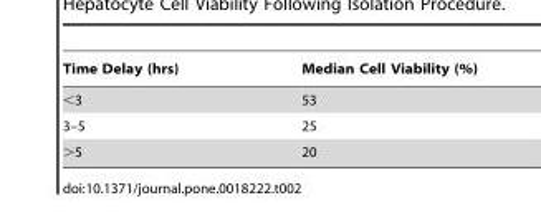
<table><thead><tr><td>Time Delay (hrs)</td><td>Median Cell Viability (%)</td></tr></thead><tbody><tr><td>&lt;3</td><td>53</td></tr><tr><td>3–5</td><td>25</td></tr><tr><td>&gt;5</td><td>20</td></tr></tbody></table>